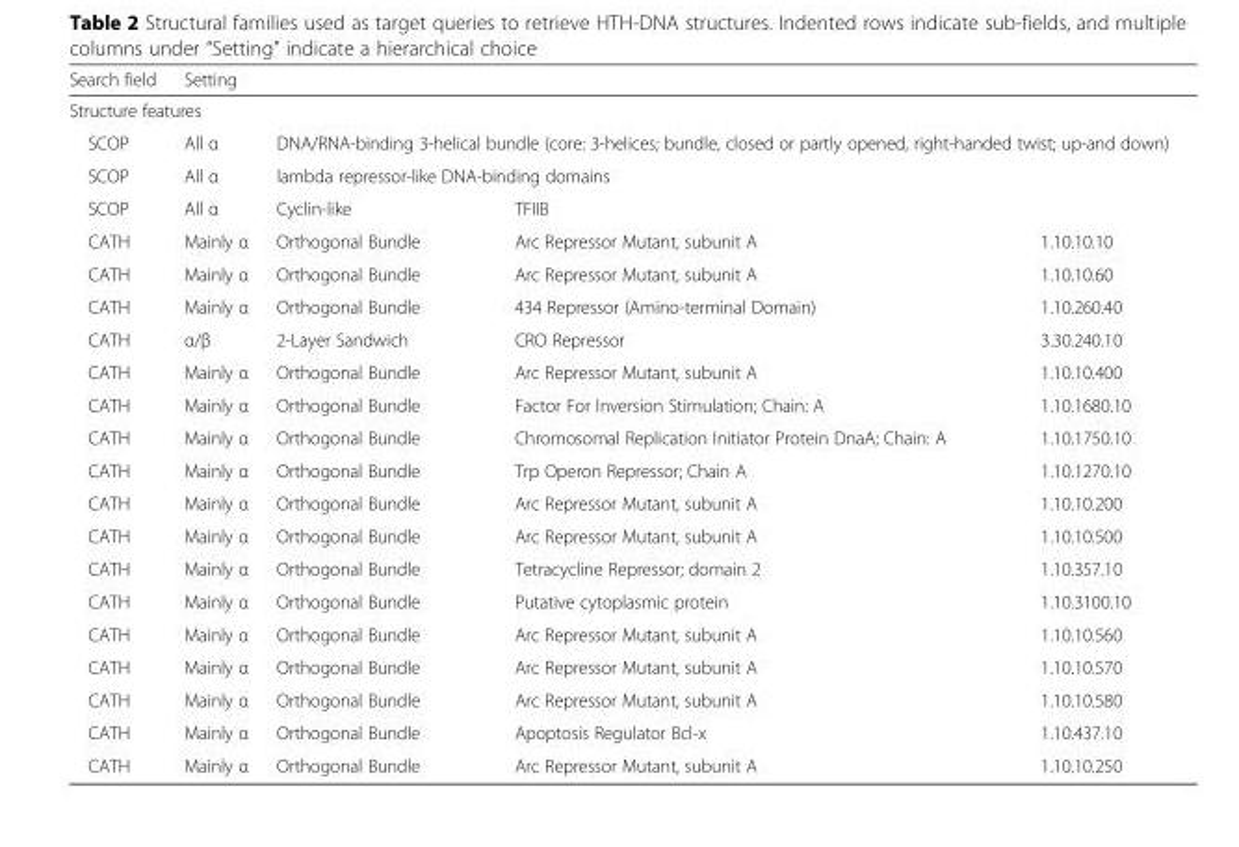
<table><thead><tr><td>Search field</td><td colspan="4">Setting</td></tr></thead><tbody><tr><td colspan="5">Structure features</td></tr><tr><td>SCOP</td><td>All α</td><td colspan="3">DNA/RNA-binding 3-helical bundle (core: 3-helices; bundle, closed or partly opened, right-handed twist; up-and down)</td></tr><tr><td>SCOP</td><td>All α</td><td colspan="3">lambda repressor-like DNA-binding domains</td></tr><tr><td>SCOP</td><td>All α</td><td>Cyclin-like</td><td colspan="2">TFIIB</td></tr><tr><td>CATH</td><td>Mainly α</td><td>Orthogonal Bundle</td><td>Arc Repressor Mutant, subunit A</td><td>1.10.10.10</td></tr><tr><td>CATH</td><td>Mainly α</td><td>Orthogonal Bundle</td><td>Arc Repressor Mutant, subunit A</td><td>1.10.10.60</td></tr><tr><td>CATH</td><td>Mainly α</td><td>Orthogonal Bundle</td><td>434 Repressor (Amino-terminal Domain)</td><td>1.10.260.40</td></tr><tr><td>CATH</td><td>α/β</td><td>2-Layer Sandwich</td><td>CRO Repressor</td><td>3.30.240.10</td></tr><tr><td>CATH</td><td>Mainly α</td><td>Orthogonal Bundle</td><td>Arc Repressor Mutant, subunit A</td><td>1.10.10.400</td></tr><tr><td>CATH</td><td>Mainly α</td><td>Orthogonal Bundle</td><td>Factor For Inversion Stimulation; Chain: A</td><td>1.10.1680.10</td></tr><tr><td>CATH</td><td>Mainly α</td><td>Orthogonal Bundle</td><td>Chromosomal Replication Initiator Protein DnaA; Chain: A</td><td>1.10.1750.10</td></tr><tr><td>CATH</td><td>Mainly α</td><td>Orthogonal Bundle</td><td>Trp Operon Repressor; Chain A</td><td>1.10.1270.10</td></tr><tr><td>CATH</td><td>Mainly α</td><td>Orthogonal Bundle</td><td>Arc Repressor Mutant, subunit A</td><td>1.10.10.200</td></tr><tr><td>CATH</td><td>Mainly α</td><td>Orthogonal Bundle</td><td>Arc Repressor Mutant, subunit A</td><td>1.10.10.500</td></tr><tr><td>CATH</td><td>Mainly α</td><td>Orthogonal Bundle</td><td>Tetracycline Repressor; domain 2</td><td>1.10.357.10</td></tr><tr><td>CATH</td><td>Mainly α</td><td>Orthogonal Bundle</td><td>Putative cytoplasmic protein</td><td>1.10.3100.10</td></tr><tr><td>CATH</td><td>Mainly α</td><td>Orthogonal Bundle</td><td>Arc Repressor Mutant, subunit A</td><td>1.10.10.560</td></tr><tr><td>CATH</td><td>Mainly α</td><td>Orthogonal Bundle</td><td>Arc Repressor Mutant, subunit A</td><td>1.10.10.570</td></tr><tr><td>CATH</td><td>Mainly α</td><td>Orthogonal Bundle</td><td>Arc Repressor Mutant, subunit A</td><td>1.10.10.580</td></tr><tr><td>CATH</td><td>Mainly α</td><td>Orthogonal Bundle</td><td>Apoptosis Regulator Bcl-x</td><td>1.10.437.10</td></tr><tr><td>CATH</td><td>Mainly α</td><td>Orthogonal Bundle</td><td>Arc Repressor Mutant, subunit A</td><td>1.10.10.250</td></tr></tbody></table>